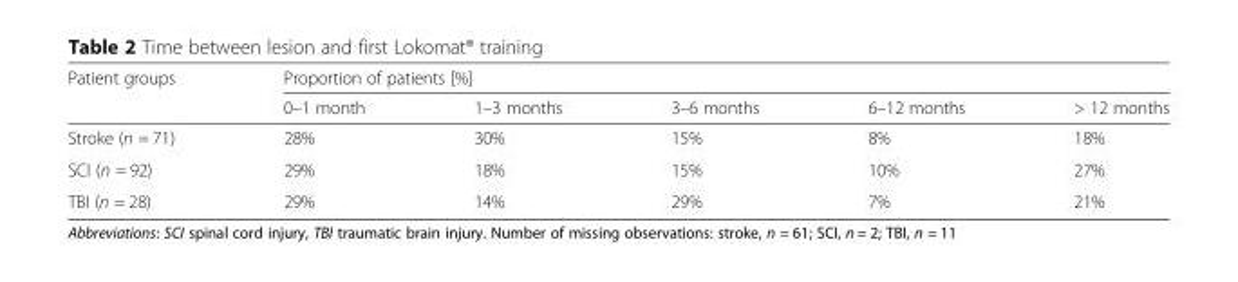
<table><thead><tr><td rowspan="2">Patient groups</td><td colspan="5">Proportion of patients [%]</td></tr><tr><td>0–1 month</td><td>1–3 months</td><td>3–6 months</td><td>6–12 months</td><td>&gt; 12 months</td></tr></thead><tbody><tr><td>Stroke (n = 71)</td><td>28%</td><td>30%</td><td>15%</td><td>8%</td><td>18%</td></tr><tr><td>SCI (n = 92)</td><td>29%</td><td>18%</td><td>15%</td><td>10%</td><td>27%</td></tr><tr><td>TBI (n = 28)</td><td>29%</td><td>14%</td><td>29%</td><td>7%</td><td>21%</td></tr></tbody></table>